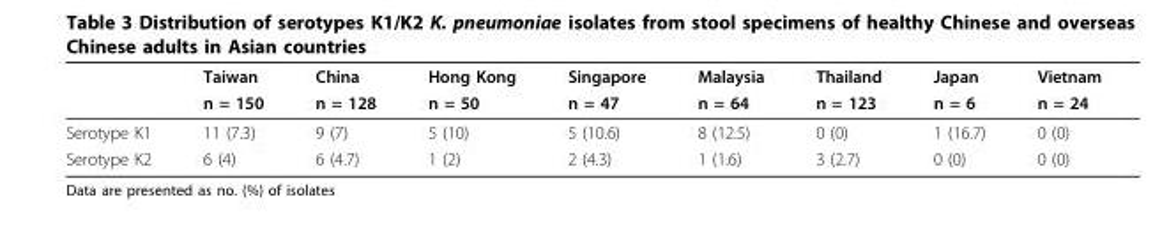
<table><thead><tr><td rowspan="2"></td><td rowspan="2">Taiwan n = 150</td><td rowspan="2">China n = 128</td><td rowspan="2">Hong Kong n = 50</td><td rowspan="2">Singapore n = 47</td><td rowspan="2">Malaysia n = 64</td><td rowspan="2">Thailand n = 123</td><td rowspan="2">Japan n = 6</td><td rowspan="2">Vietnam n = 24</td></tr><tr></tr></thead><tbody><tr><td>Serotype K1</td><td>11 (7.3)</td><td>9 (7)</td><td>5 (10)</td><td>5 (10.6)</td><td>8 (12.5)</td><td>0 (0)</td><td>1 (16.7)</td><td>0 (0)</td></tr><tr><td>Serotype K2</td><td>6 (4)</td><td>6 (4.7)</td><td>1 (2)</td><td>2 (4.3)</td><td>1 (1.6)</td><td>3 (2.7)</td><td>0 (0)</td><td>0 (0)</td></tr></tbody></table>